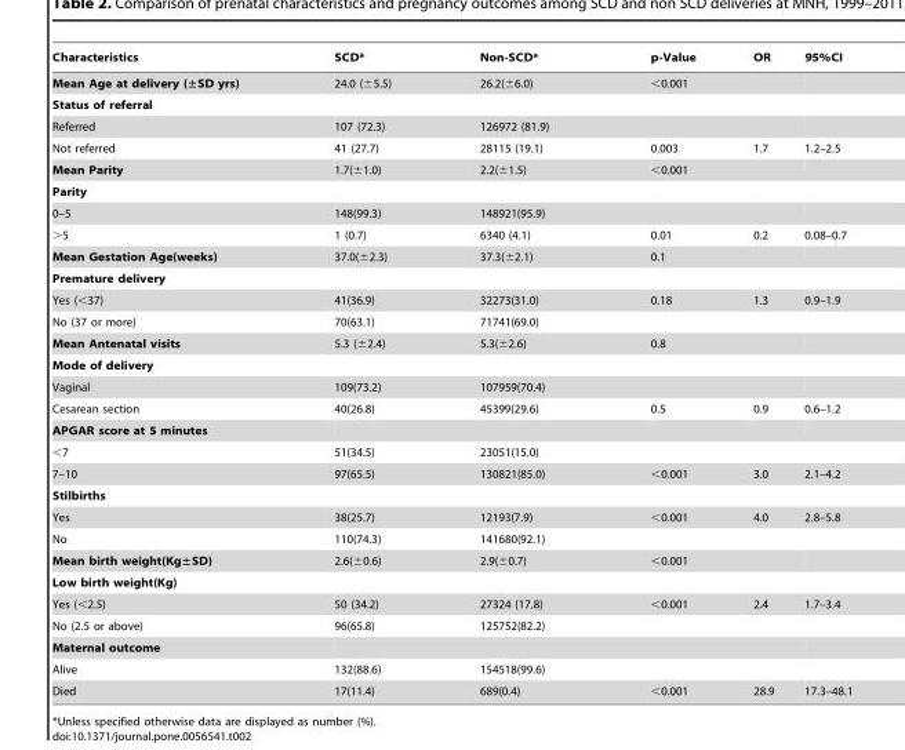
<table><thead><tr><td>Characteristics</td><td>SCD*</td><td>Non-SCD*</td><td>p-Value</td><td>OR</td><td>95%CI</td></tr></thead><tbody><tr><td>Mean Age at delivery (±SD yrs)</td><td>24.0 (±5.5)</td><td>26.2(±6.0)</td><td>&lt;0.001</td><td></td><td></td></tr><tr><td colspan="6">Status of referral</td></tr><tr><td>Referred</td><td>107 (72.3)</td><td>126972 (81.9)</td><td></td><td></td><td></td></tr><tr><td>Not referred</td><td>41 (27.7)</td><td>28115 (19.1)</td><td>0.003</td><td>1.7</td><td>1.2–2.5</td></tr><tr><td>Mean Parity</td><td>1.7(±1.0)</td><td>2.2(±1.5)</td><td>&lt;0.001</td><td></td><td></td></tr><tr><td colspan="6">Parity</td></tr><tr><td>0–5</td><td>148(99.3)</td><td>148921(95.9)</td><td></td><td></td><td></td></tr><tr><td>&gt;5</td><td>1 (0.7)</td><td>6340 (4.1)</td><td>0.01</td><td>0.2</td><td>0.08–0.7</td></tr><tr><td>Mean Gestation Age(weeks)</td><td>37.0(±2.3)</td><td>37.3(±2.1)</td><td>0.1</td><td></td><td></td></tr><tr><td colspan="6">Premature delivery</td></tr><tr><td>Yes (&lt;37)</td><td>41(36.9)</td><td>32273(31.0)</td><td>0.18</td><td>1.3</td><td>0.9–1.9</td></tr><tr><td>No (37 or more)</td><td>70(63.1)</td><td>71741(69.0)</td><td></td><td></td><td></td></tr><tr><td>Mean Antenatal visits</td><td>5.3 (±2.4)</td><td>5.3(±2.6)</td><td>0.8</td><td></td><td></td></tr><tr><td colspan="6">Mode of delivery</td></tr><tr><td>Vaginal</td><td>109(73.2)</td><td>107959(70.4)</td><td></td><td></td><td></td></tr><tr><td>Cesarean section</td><td>40(26.8)</td><td>45399(29.6)</td><td>0.5</td><td>0.9</td><td>0.6–1.2</td></tr><tr><td colspan="6">APGAR score at 5 minutes</td></tr><tr><td>&lt;7</td><td>51(34.5)</td><td>23051(15.0)</td><td></td><td></td><td></td></tr><tr><td>7–10</td><td>97(65.5)</td><td>130821(85.0)</td><td>&lt;0.001</td><td>3.0</td><td>2.1–4.2</td></tr><tr><td colspan="6">Stilbirths</td></tr><tr><td>Yes</td><td>38(25.7)</td><td>12193(7.9)</td><td>&lt;0.001</td><td>4.0</td><td>2.8–5.8</td></tr><tr><td>No</td><td>110(74.3)</td><td>141680(92.1)</td><td></td><td></td><td></td></tr><tr><td>Mean birth weight(Kg±SD)</td><td>2.6(±0.6)</td><td>2.9(±0.7)</td><td>&lt;0.001</td><td></td><td></td></tr><tr><td colspan="6">Low birth weight(Kg)</td></tr><tr><td>Yes (&lt;2.5)</td><td>50 (34.2)</td><td>27324 (17.8)</td><td>&lt;0.001</td><td>2.4</td><td>1.7–3.4</td></tr><tr><td>No (2.5 or above)</td><td>96(65.8)</td><td>125752(82.2)</td><td></td><td></td><td></td></tr><tr><td colspan="6">Maternal outcome</td></tr><tr><td>Alive</td><td>132(88.6)</td><td>154518(99.6)</td><td></td><td></td><td></td></tr><tr><td>Died</td><td>17(11.4)</td><td>689(0.4)</td><td>&lt;0.001</td><td>28.9</td><td>17.3–48.1</td></tr></tbody></table>